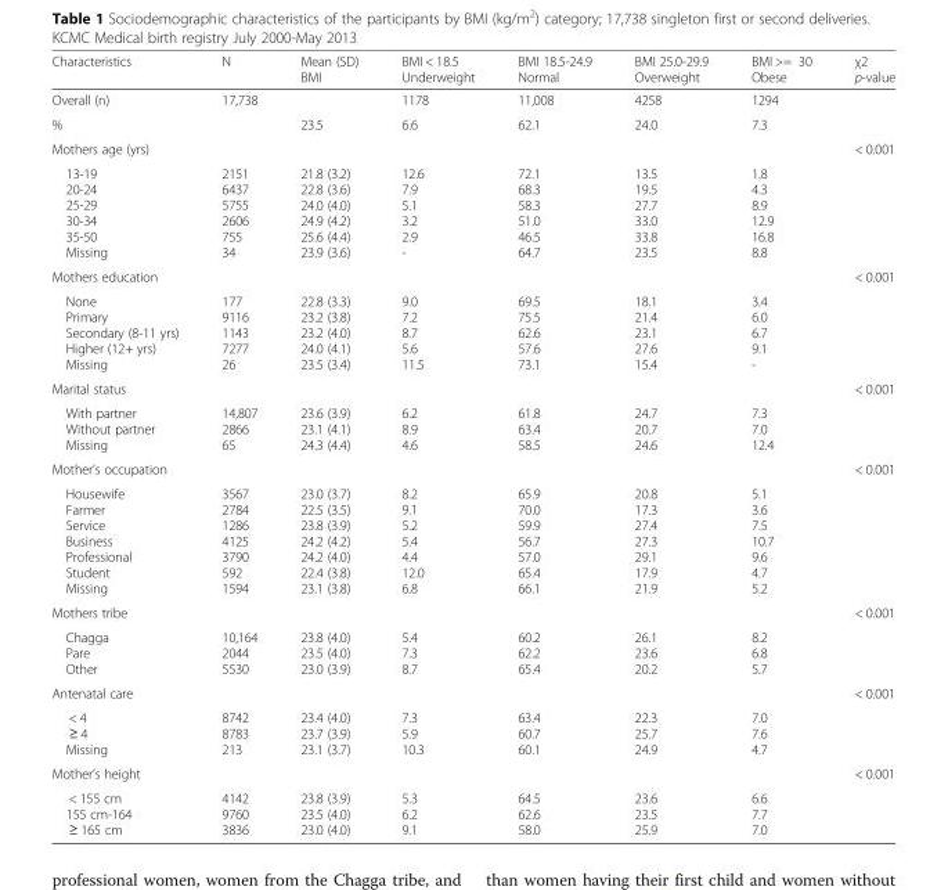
<table><thead><tr><td>Characteristics</td><td>N</td><td>Mean (SD) BMI</td><td>BMI &lt; 18.5 Underweight</td><td>BMI 18.5-24.9 Normal</td><td>BMI 25.0-29.9 Overweight</td><td>BMI &gt;= 30 Obese</td><td>χ2 p-value</td></tr></thead><tbody><tr><td>Overall (n)</td><td>17,738</td><td></td><td>1178</td><td>11,008</td><td>4258</td><td>1294</td><td></td></tr><tr><td>%</td><td></td><td>23.5</td><td>6.6</td><td>62.1</td><td>24.0</td><td>7.3</td><td></td></tr><tr><td>Mothers age (yrs)</td><td></td><td></td><td></td><td></td><td></td><td></td><td>&lt; 0.001</td></tr><tr><td>13-19 20-24 25-29 30-34 35-50 Missing</td><td>2151 6437 5755 2606 755 34</td><td>21.8 (3.2) 22.8 (3.6) 24.0 (4.0) 24.9 (4.2) 25.6 (4.4) 23.9 (3.6)</td><td>12.6 7.9 5.1 3.2 2.9 -</td><td>72.1 68.3 58.3 51.0 46.5 64.7</td><td>13.5 19.5 27.7 33.0 33.8 23.5</td><td>1.8 4.3 8.9 12.9 16.8 8.8</td><td></td></tr><tr><td>Mothers education</td><td></td><td></td><td></td><td></td><td></td><td></td><td>&lt; 0.001</td></tr><tr><td>None Primary Secondary (8-11 yrs) Higher (12+ yrs) Missing</td><td>177 9116 1143 7277 26</td><td>22.8 (3.3) 23.2 (3.8) 23.2 (4.0) 24.0 (4.1) 23.5 (3.4)</td><td>9.0 7.2 8.7 5.6 11.5</td><td>69.5 75.5 62.6 57.6 73.1</td><td>18.1 21.4 23.1 27.6 15.4</td><td>3.4 6.0 6.7 9.1 -</td><td></td></tr><tr><td>Marital status</td><td></td><td></td><td></td><td></td><td></td><td></td><td>&lt; 0.001</td></tr><tr><td>With partner Without partner Missing</td><td>14,807 2866 65</td><td>23.6 (3.9) 23.1 (4.1) 24.3 (4.4)</td><td>6.2 8.9 4.6</td><td>61.8 63.4 58.5</td><td>24.7 20.7 24.6</td><td>7.3 7.0 12.4</td><td></td></tr><tr><td>Mother’s occupation</td><td></td><td></td><td></td><td></td><td></td><td></td><td>&lt; 0.001</td></tr><tr><td>Housewife Farmer Service Business Professional Student Missing</td><td>3567 2784 1286 4125 3790 592 1594</td><td>23.0 (3.7) 22.5 (3.5) 23.8 (3.9) 24.2 (4.2) 24.2 (4.0) 22.4 (3.8) 23.1 (3.8)</td><td>8.2 9.1 5.2 5.4 4.4 12.0 6.8</td><td>65.9 70.0 59.9 56.7 57.0 65.4 66.1</td><td>20.8 17.3 27.4 27.3 29.1 17.9 21.9</td><td>5.1 3.6 7.5 10.7 9.6 4.7 5.2</td><td></td></tr><tr><td>Mothers tribe</td><td></td><td></td><td></td><td></td><td></td><td></td><td>&lt; 0.001</td></tr><tr><td>Chagga Pare Other</td><td>10,164 2044 5530</td><td>23.8 (4.0) 23.5 (4.0) 23.0 (3.9)</td><td>5.4 7.3 8.7</td><td>60.2 62.2 65.4</td><td>26.1 23.6 20.2</td><td>8.2 6.8 5.7</td><td></td></tr><tr><td>Antenatal care</td><td></td><td></td><td></td><td></td><td></td><td></td><td>&lt; 0.001</td></tr><tr><td>&lt; 4 ≥ 4 Missing</td><td>8742 8783 213</td><td>23.4 (4.0) 23.7 (3.9) 23.1 (3.7)</td><td>7.3 5.9 10.3</td><td>63.4 60.7 60.1</td><td>22.3 25.7 24.9</td><td>7.0 7.6 4.7</td><td></td></tr><tr><td>Mother’s height</td><td></td><td></td><td></td><td></td><td></td><td></td><td>&lt; 0.001</td></tr><tr><td>&lt; 155 cm 155 cm-164 ≥ 165 cm</td><td>4142 9760 3836</td><td>23.8 (3.9) 23.5 (4.0) 23.0 (4.0)</td><td>5.3 6.2 9.1</td><td>64.5 62.6 58.0</td><td>23.6 23.5 25.9</td><td>6.6 7.7 7.0</td><td></td></tr></tbody></table>